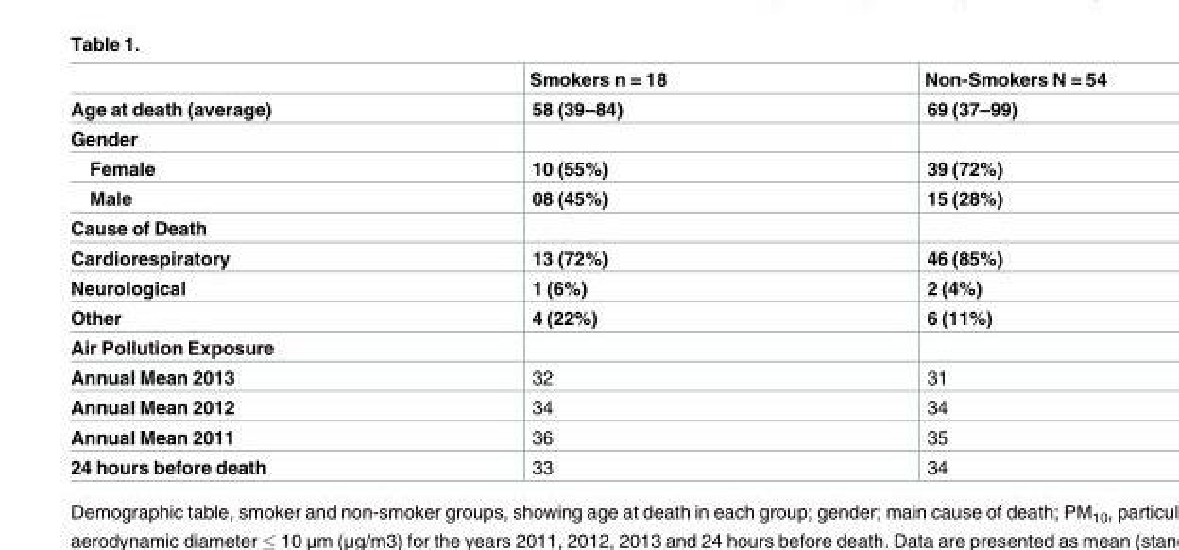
<table><thead><tr><td></td><td>Smokers n = 18</td><td>Non-Smokers N = 54</td></tr></thead><tbody><tr><td>Age at death (average)</td><td>58 (39–84)</td><td>69 (37–99)</td></tr><tr><td colspan="3">Gender</td></tr><tr><td>Female</td><td>10 (55%)</td><td>39 (72%)</td></tr><tr><td>Male</td><td>08 (45%)</td><td>15 (28%)</td></tr><tr><td colspan="3">Cause of Death</td></tr><tr><td>Cardiorespiratory</td><td>13 (72%)</td><td>46 (85%)</td></tr><tr><td>Neurological</td><td>1 (6%)</td><td>2 (4%)</td></tr><tr><td>Other</td><td>4 (22%)</td><td>6 (11%)</td></tr><tr><td colspan="3">Air Pollution Exposure</td></tr><tr><td>Annual Mean 2013</td><td>32</td><td>31</td></tr><tr><td>Annual Mean 2012</td><td>34</td><td>34</td></tr><tr><td>Annual Mean 2011</td><td>36</td><td>35</td></tr><tr><td>24 hours before death</td><td>33</td><td>34</td></tr></tbody></table>